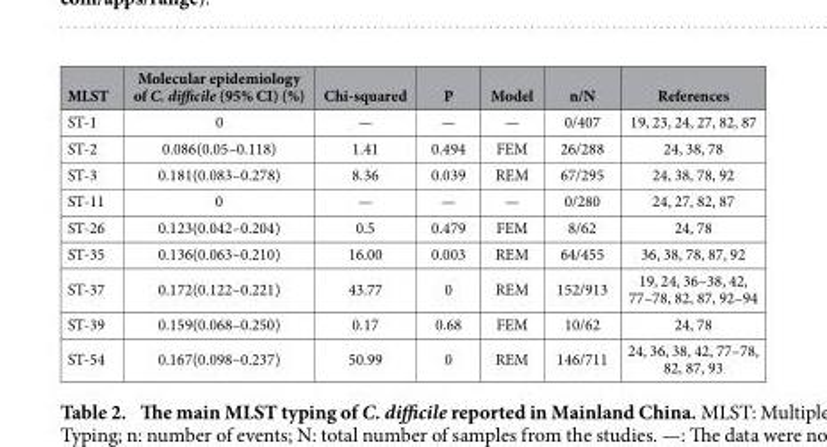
<table><thead><tr><td>MLST</td><td>Molecular epidemiology of C. difficile (95% CI) (%)</td><td>Chi-squared</td><td>P</td><td>Model</td><td>n/N</td><td>References</td></tr></thead><tbody><tr><td>ST-1</td><td>0</td><td>—</td><td>—</td><td>—</td><td>0/407</td><td>19, 23, 24, 27, 82, 87</td></tr><tr><td>ST-2</td><td>0.086(0.05–0.118)</td><td>1.41</td><td>0.494</td><td>FEM</td><td>26/288</td><td>24, 38, 78</td></tr><tr><td>ST-3</td><td>0.181(0.083–0.278)</td><td>8.36</td><td>0.039</td><td>REM</td><td>67/295</td><td>24, 38, 78, 92</td></tr><tr><td>ST-11</td><td>0</td><td>—</td><td>—</td><td>—</td><td>0/280</td><td>24, 27, 82, 87</td></tr><tr><td>ST-26</td><td>0.123(0.042–0.204)</td><td>0.5</td><td>0.479</td><td>FEM</td><td>8/62</td><td>24, 78</td></tr><tr><td>ST-35</td><td>0.136(0.063–0.210)</td><td>16.00</td><td>0.003</td><td>REM</td><td>64/455</td><td>36, 38, 78, 87, 92</td></tr><tr><td>ST-37</td><td>0.172(0.122–0.221)</td><td>43.77</td><td>0</td><td>REM</td><td>152/913</td><td>19, 24, 36–38, 42, 77–78, 82, 87, 92–94</td></tr><tr><td>ST-39</td><td>0.159(0.068–0.250)</td><td>0.17</td><td>0.68</td><td>FEM</td><td>10/62</td><td>24, 78</td></tr><tr><td>ST-54</td><td>0.167(0.098–0.237)</td><td>50.99</td><td>0</td><td>REM</td><td>146/711</td><td>24, 36, 38, 42, 77–78, 82, 87, 93</td></tr></tbody></table>